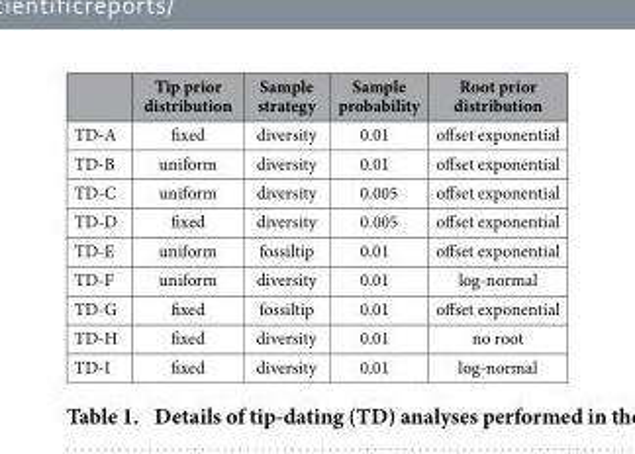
<table><thead><tr><td></td><td>Tip prior distribution</td><td>Sample strategy</td><td>Sample probability</td><td>Root prior distribution</td></tr></thead><tbody><tr><td>TD-A</td><td>fixed</td><td>diversity</td><td>0.01</td><td>offset exponential</td></tr><tr><td>TD-B</td><td>uniform</td><td>diversity</td><td>0.01</td><td>offset exponential</td></tr><tr><td>TD-C</td><td>uniform</td><td>diversity</td><td>0.005</td><td>offset exponential</td></tr><tr><td>TD-D</td><td>fixed</td><td>diversity</td><td>0.005</td><td>offset exponential</td></tr><tr><td>TD-E</td><td>uniform</td><td>fossiltip</td><td>0.01</td><td>offset exponential</td></tr><tr><td>TD-F</td><td>uniform</td><td>diversity</td><td>0.01</td><td>log-normal</td></tr><tr><td>TD-G</td><td>fixed</td><td>fossiltip</td><td>0.01</td><td>offset exponential</td></tr><tr><td>TD-H</td><td>fixed</td><td>diversity</td><td>0.01</td><td>no root</td></tr><tr><td>TD-I</td><td>fixed</td><td>diversity</td><td>0.01</td><td>log-normal</td></tr></tbody></table>